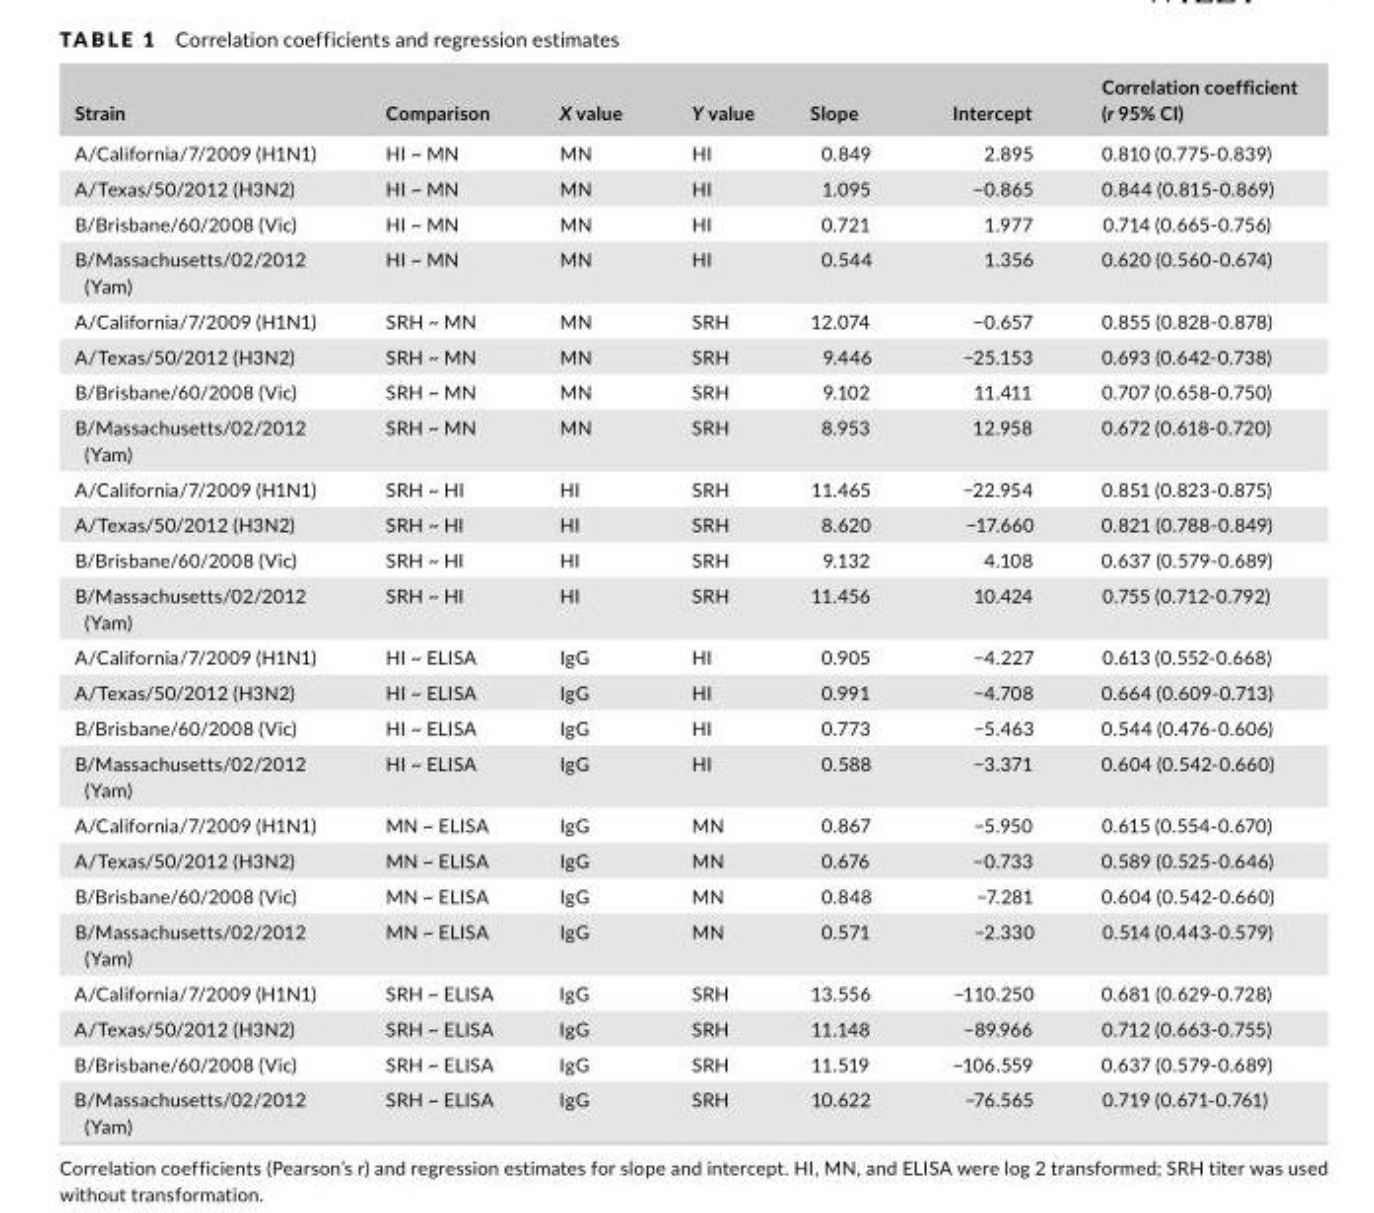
<table><thead><tr><td>Strain</td><td>Comparison</td><td>X value</td><td>Y value</td><td>Slope</td><td>Intercept</td><td>Correlation coefficient (r 95% CI)</td></tr></thead><tbody><tr><td>A/California/7/2009 (H1N1)</td><td>HI ~ MN</td><td>MN</td><td>HI</td><td>0.849</td><td>2.895</td><td>0.810 (0.775- 0.839)</td></tr><tr><td>A/Texas/50/2012 (H3N2)</td><td>HI ~ MN</td><td>MN</td><td>HI</td><td>1.095</td><td>−0.865</td><td>0.844 (0.815- 0.869)</td></tr><tr><td>B/Brisbane/60/2008 (Vic)</td><td>HI ~ MN</td><td>MN</td><td>HI</td><td>0.721</td><td>1.977</td><td>0.714 (0.665- 0.756)</td></tr><tr><td>B/Massachusetts/02/2012 (Yam)</td><td>HI ~ MN</td><td>MN</td><td>HI</td><td>0.544</td><td>1.356</td><td>0.620 (0.560- 0.674)</td></tr><tr><td>A/California/7/2009 (H1N1)</td><td>SRH ~ MN</td><td>MN</td><td>SRH</td><td>12.074</td><td>−0.657</td><td>0.855 (0.828- 0.878)</td></tr><tr><td>A/Texas/50/2012 (H3N2)</td><td>SRH ~ MN</td><td>MN</td><td>SRH</td><td>9.446</td><td>−25.153</td><td>0.693 (0.642- 0.738)</td></tr><tr><td>B/Brisbane/60/2008 (Vic)</td><td>SRH ~ MN</td><td>MN</td><td>SRH</td><td>9.102</td><td>11.411</td><td>0.707 (0.658- 0.750)</td></tr><tr><td>B/Massachusetts/02/2012 (Yam)</td><td>SRH ~ MN</td><td>MN</td><td>SRH</td><td>8.953</td><td>12.958</td><td>0.672 (0.618- 0.720)</td></tr><tr><td>A/California/7/2009 (H1N1)</td><td>SRH ~ HI</td><td>HI</td><td>SRH</td><td>11.465</td><td>−22.954</td><td>0.851 (0.823- 0.875)</td></tr><tr><td>A/Texas/50/2012 (H3N2)</td><td>SRH ~ HI</td><td>HI</td><td>SRH</td><td>8.620</td><td>−17.660</td><td>0.821 (0.788- 0.849)</td></tr><tr><td>B/Brisbane/60/2008 (Vic)</td><td>SRH ~ HI</td><td>HI</td><td>SRH</td><td>9.132</td><td>4.108</td><td>0.637 (0.579- 0.689)</td></tr><tr><td>B/Massachusetts/02/2012 (Yam)</td><td>SRH ~ HI</td><td>HI</td><td>SRH</td><td>11.456</td><td>10.424</td><td>0.755 (0.712- 0.792)</td></tr><tr><td>A/California/7/2009 (H1N1)</td><td>HI ~ ELISA</td><td>IgG</td><td>HI</td><td>0.905</td><td>−4.227</td><td>0.613 (0.552- 0.668)</td></tr><tr><td>A/Texas/50/2012 (H3N2)</td><td>HI ~ ELISA</td><td>IgG</td><td>HI</td><td>0.991</td><td>−4.708</td><td>0.664 (0.609- 0.713)</td></tr><tr><td>B/Brisbane/60/2008 (Vic)</td><td>HI ~ ELISA</td><td>IgG</td><td>HI</td><td>0.773</td><td>−5.463</td><td>0.544 (0.476- 0.606)</td></tr><tr><td>B/Massachusetts/02/2012 (Yam)</td><td>HI ~ ELISA</td><td>IgG</td><td>HI</td><td>0.588</td><td>−3.371</td><td>0.604 (0.542- 0.660)</td></tr><tr><td>A/California/7/2009 (H1N1)</td><td>MN ~ ELISA</td><td>IgG</td><td>MN</td><td>0.867</td><td>−5.950</td><td>0.615 (0.554- 0.670)</td></tr><tr><td>A/Texas/50/2012 (H3N2)</td><td>MN ~ ELISA</td><td>IgG</td><td>MN</td><td>0.676</td><td>−0.733</td><td>0.589 (0.525- 0.646)</td></tr><tr><td>B/Brisbane/60/2008 (Vic)</td><td>MN ~ ELISA</td><td>IgG</td><td>MN</td><td>0.848</td><td>−7.281</td><td>0.604 (0.542- 0.660)</td></tr><tr><td>B/Massachusetts/02/2012 (Yam)</td><td>MN ~ ELISA</td><td>IgG</td><td>MN</td><td>0.571</td><td>−2.330</td><td>0.514 (0.443- 0.579)</td></tr><tr><td>A/California/7/2009 (H1N1)</td><td>SRH ~ ELISA</td><td>IgG</td><td>SRH</td><td>13.556</td><td>−110.250</td><td>0.681 (0.629- 0.728)</td></tr><tr><td>A/Texas/50/2012 (H3N2)</td><td>SRH ~ ELISA</td><td>IgG</td><td>SRH</td><td>11.148</td><td>−89.966</td><td>0.712 (0.663- 0.755)</td></tr><tr><td>B/Brisbane/60/2008 (Vic)</td><td>SRH ~ ELISA</td><td>IgG</td><td>SRH</td><td>11.519</td><td>−106.559</td><td>0.637 (0.579- 0.689)</td></tr><tr><td>B/Massachusetts/02/2012 (Yam)</td><td>SRH ~ ELISA</td><td>IgG</td><td>SRH</td><td>10.622</td><td>−76.565</td><td>0.719 (0.671- 0.761)</td></tr></tbody></table>